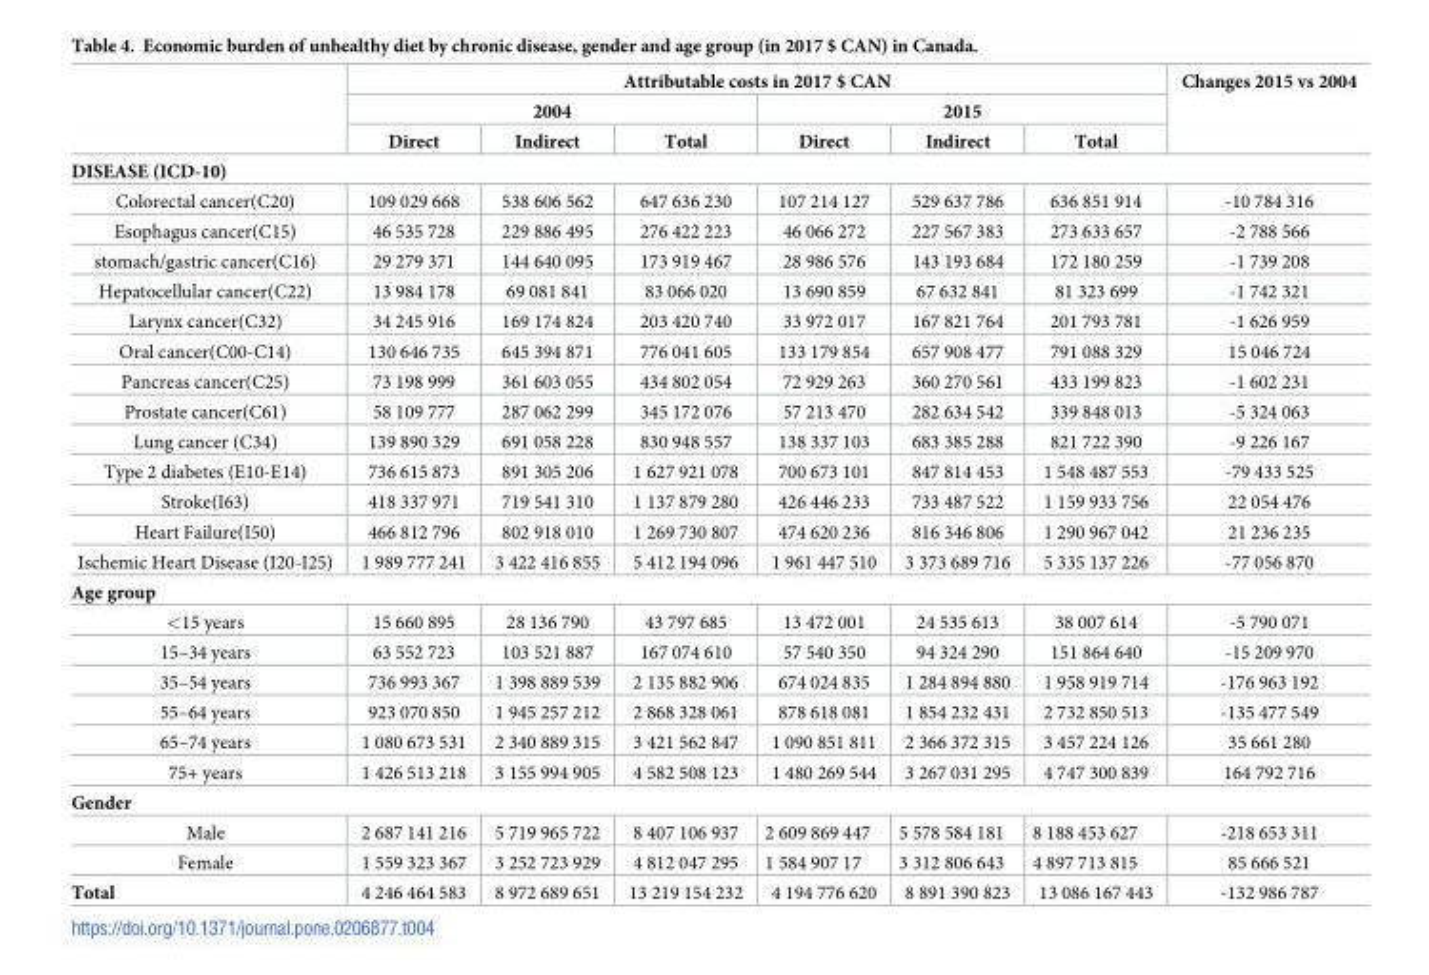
<table><thead><tr><td rowspan="3"></td><td colspan="6">Attributable costs in 2017 $ CAN</td><td rowspan="3">Changes 2015 vs 2004</td></tr><tr><td colspan="3">2004</td><td colspan="3">2015</td></tr><tr><td>Direct</td><td>Indirect</td><td>Total</td><td>Direct</td><td>Indirect</td><td>Total</td></tr></thead><tbody><tr><td colspan="8">DISEASE (ICD-10)</td></tr><tr><td>Colorectal cancer(C20)</td><td>109 029 668</td><td>538 606 562</td><td>647 636 230</td><td>107 214 127</td><td>529 637 786</td><td>636 851 914</td><td>-10 784 316</td></tr><tr><td>Esophagus cancer(C15)</td><td>46 535 728</td><td>229 886 495</td><td>276 422 223</td><td>46 066 272</td><td>227 567 383</td><td>273 633 657</td><td>-2 788 566</td></tr><tr><td>stomach/gastric cancer(C16)</td><td>29 279 371</td><td>144 640 095</td><td>173 919 467</td><td>28 986 576</td><td>143 193 684</td><td>172 180 259</td><td>-1 739 208</td></tr><tr><td>Hepatocellular cancer(C22)</td><td>13 984 178</td><td>69 081 841</td><td>83 066 020</td><td>13 690 859</td><td>67 632 841</td><td>81 323 699</td><td>-1 742 321</td></tr><tr><td>Larynx cancer(C32)</td><td>34 245 916</td><td>169 174 824</td><td>203 420 740</td><td>33 972 017</td><td>167 821 764</td><td>201 793 781</td><td>-1 626 959</td></tr><tr><td>Oral cancer(C00-C14)</td><td>130 646 735</td><td>645 394 871</td><td>776 041 605</td><td>133 179 854</td><td>657 908 477</td><td>791 088 329</td><td>15 046 724</td></tr><tr><td>Pancreas cancer(C25)</td><td>73 198 999</td><td>361 603 055</td><td>434 802 054</td><td>72 929 263</td><td>360 270 561</td><td>433 199 823</td><td>-1 602 231</td></tr><tr><td>Prostate cancer(C61)</td><td>58 109 777</td><td>287 062 299</td><td>345 172 076</td><td>57 213 470</td><td>282 634 542</td><td>339 848 013</td><td>-5 324 063</td></tr><tr><td>Lung cancer (C34)</td><td>139 890 329</td><td>691 058 228</td><td>830 948 557</td><td>138 337 103</td><td>683 385 288</td><td>821 722 390</td><td>-9 226 167</td></tr><tr><td>Type 2 diabetes (E10-E14)</td><td>736 615 873</td><td>891 305 206</td><td>1 627 921 078</td><td>700 673 101</td><td>847 814 453</td><td>1 548 487 553</td><td>-79 433 525</td></tr><tr><td>Stroke(I63)</td><td>418 337 971</td><td>719 541 310</td><td>1 137 879 280</td><td>426 446 233</td><td>733 487 522</td><td>1 159 933 756</td><td>22 054 476</td></tr><tr><td>Heart Failure(I50)</td><td>466 812 796</td><td>802 918 010</td><td>1 269 730 807</td><td>474 620 236</td><td>816 346 806</td><td>1 290 967 042</td><td>21 236 235</td></tr><tr><td>Ischemic Heart Disease (I20-I25)</td><td>1 989 777 241</td><td>3 422 416 855</td><td>5 412 194 096</td><td>1 961 447 510</td><td>3 373 689 716</td><td>5 335 137 226</td><td>-77 056 870</td></tr><tr><td colspan="8">Age group</td></tr><tr><td>&lt;15 years</td><td>15 660 895</td><td>28 136 790</td><td>43 797 685</td><td>13 472 001</td><td>24 535 613</td><td>38 007 614</td><td>-5 790 071</td></tr><tr><td>15–34 years</td><td>63 552 723</td><td>103 521 887</td><td>167 074 610</td><td>57 540 350</td><td>94 324 290</td><td>151 864 640</td><td>-15 209 970</td></tr><tr><td>35–54 years</td><td>736 993 367</td><td>1 398 889 539</td><td>2 135 882 906</td><td>674 024 835</td><td>1 284 894 880</td><td>1 958 919 714</td><td>-176 963 192</td></tr><tr><td>55–64 years</td><td>923 070 850</td><td>1 945 257 212</td><td>2 868 328 061</td><td>878 618 081</td><td>1 854 232 431</td><td>2 732 850 513</td><td>-135 477 549</td></tr><tr><td>65–74 years</td><td>1 080 673 531</td><td>2 340 889 315</td><td>3 421 562 847</td><td>1 090 851 811</td><td>2 366 372 315</td><td>3 457 224 126</td><td>35 661 280</td></tr><tr><td>75+ years</td><td>1 426 513 218</td><td>3 155 994 905</td><td>4 582 508 123</td><td>1 480 269 544</td><td>3 267 031 295</td><td>4 747 300 839</td><td>164 792 716</td></tr><tr><td colspan="8">Gender</td></tr><tr><td>Male</td><td>2 687 141 216</td><td>5 719 965 722</td><td>8 407 106 937</td><td>2 609 869 447</td><td>5 578 584 181</td><td>8 188 453 627</td><td>-218 653 311</td></tr><tr><td>Female</td><td>1 559 323 367</td><td>3 252 723 929</td><td>4 812 047 295</td><td>1 584 907 17</td><td>3 312 806 643</td><td>4 897 713 815</td><td>85 666 521</td></tr><tr><td>Total</td><td>4 246 464 583</td><td>8 972 689 651</td><td>13 219 154 232</td><td>4 194 776 620</td><td>8 891 390 823</td><td>13 086 167 443</td><td>-132 986 787</td></tr></tbody></table>